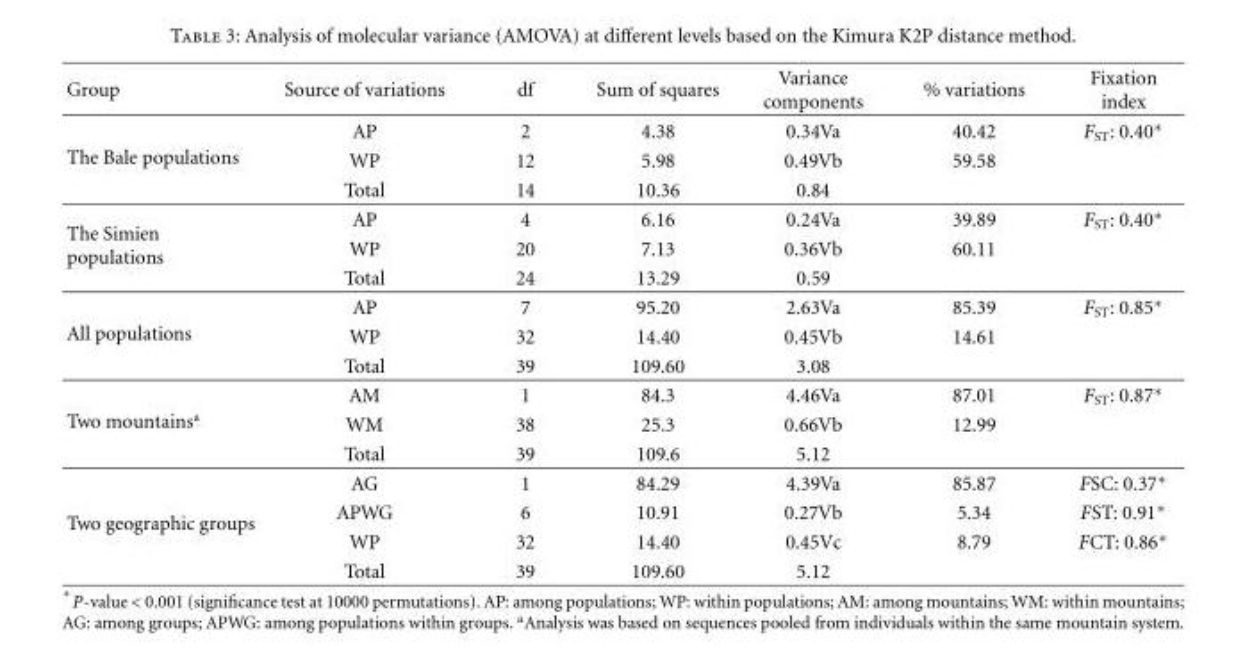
<table><thead><tr><td>Group</td><td>Source of variations</td><td>df</td><td>Sum of squares</td><td>Variance components</td><td>% variations</td><td>Fixation index</td></tr></thead><tbody><tr><td rowspan="3">The Bale populations</td><td>AP</td><td>2</td><td>4.38</td><td>0.34Va</td><td>40.42</td><td>FST: 0.40∗</td></tr><tr><td>WP</td><td>12</td><td>5.98</td><td>0.49Vb</td><td>59.58</td><td></td></tr><tr><td>Total</td><td>14</td><td>10.36</td><td>0.84</td><td></td><td></td></tr><tr><td rowspan="3">The Simien populations</td><td>AP</td><td>4</td><td>6.16</td><td>0.24Va</td><td>39.89</td><td>FST: 0.40∗</td></tr><tr><td>WP</td><td>20</td><td>7.13</td><td>0.36Vb</td><td>60.11</td><td></td></tr><tr><td>Total</td><td>24</td><td>13.29</td><td>0.59</td><td></td><td></td></tr><tr><td rowspan="3">All populations</td><td>AP</td><td>7</td><td>95.20</td><td>2.63Va</td><td>85.39</td><td>FST: 0.85∗</td></tr><tr><td>WP</td><td>32</td><td>14.40</td><td>0.45Vb</td><td>14.61</td><td></td></tr><tr><td>Total</td><td>39</td><td>109.60</td><td>3.08</td><td></td><td></td></tr><tr><td rowspan="3">Two mountains<sup>a</sup></td><td>AM</td><td>1</td><td>84.3</td><td>4.46Va</td><td>87.01</td><td>FST: 0.87∗</td></tr><tr><td>WM</td><td>38</td><td>25.3</td><td>0.66Vb</td><td>12.99</td><td></td></tr><tr><td>Total</td><td>39</td><td>109.6</td><td>5.12</td><td></td><td></td></tr><tr><td rowspan="4">Two geographic groups</td><td>AG</td><td>1</td><td>84.29</td><td>4.39Va</td><td>85.87</td><td>FSC: 0.37∗</td></tr><tr><td>APWG</td><td>6</td><td>10.91</td><td>0.27Vb</td><td>5.34</td><td>FST: 0.91∗</td></tr><tr><td>WP</td><td>32</td><td>14.40</td><td>0.45Vc</td><td>8.79</td><td>FCT: 0.86∗</td></tr><tr><td>Total</td><td>39</td><td>109.60</td><td>5.12</td><td></td><td></td></tr></tbody></table>